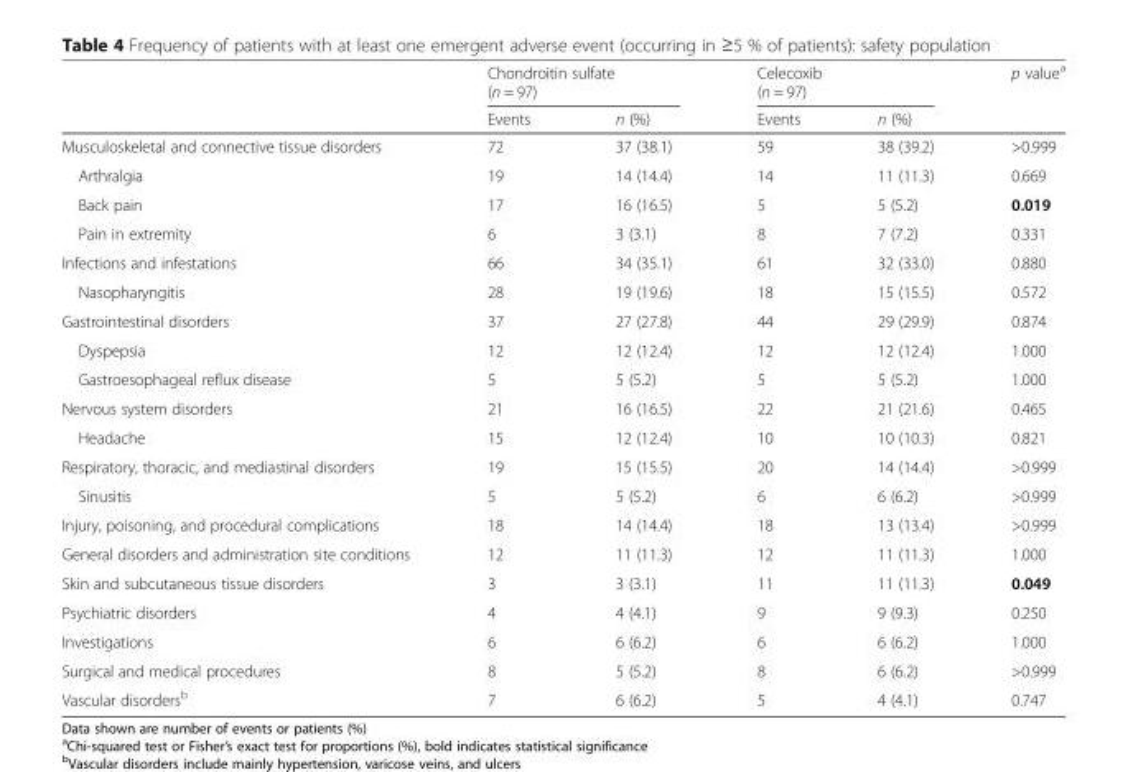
<table><thead><tr><td rowspan="2"></td><td colspan="2">Chondroitin sulfate (n = 97)</td><td colspan="2">Celecoxib (n = 97)</td><td rowspan="2">p value<sup>a</sup></td></tr><tr><td>Events</td><td>n (%)</td><td>Events</td><td>n (%)</td></tr></thead><tbody><tr><td>Musculoskeletal and connective tissue disorders</td><td>72</td><td>37 (38.1)</td><td>59</td><td>38 (39.2)</td><td>&gt;0.999</td></tr><tr><td>Arthralgia</td><td>19</td><td>14 (14.4)</td><td>14</td><td>11 (11.3)</td><td>0.669</td></tr><tr><td>Back pain</td><td>17</td><td>16 (16.5)</td><td>5</td><td>5 (5.2)</td><td>0.019</td></tr><tr><td>Pain in extremity</td><td>6</td><td>3 (3.1)</td><td>8</td><td>7 (7.2)</td><td>0.331</td></tr><tr><td>Infections and infestations</td><td>66</td><td>34 (35.1)</td><td>61</td><td>32 (33.0)</td><td>0.880</td></tr><tr><td>Nasopharyngitis</td><td>28</td><td>19 (19.6)</td><td>18</td><td>15 (15.5)</td><td>0.572</td></tr><tr><td>Gastrointestinal disorders</td><td>37</td><td>27 (27.8)</td><td>44</td><td>29 (29.9)</td><td>0.874</td></tr><tr><td>Dyspepsia</td><td>12</td><td>12 (12.4)</td><td>12</td><td>12 (12.4)</td><td>1.000</td></tr><tr><td>Gastroesophageal reflux disease</td><td>5</td><td>5 (5.2)</td><td>5</td><td>5 (5.2)</td><td>1.000</td></tr><tr><td>Nervous system disorders</td><td>21</td><td>16 (16.5)</td><td>22</td><td>21 (21.6)</td><td>0.465</td></tr><tr><td>Headache</td><td>15</td><td>12 (12.4)</td><td>10</td><td>10 (10.3)</td><td>0.821</td></tr><tr><td>Respiratory, thoracic, and mediastinal disorders</td><td>19</td><td>15 (15.5)</td><td>20</td><td>14 (14.4)</td><td>&gt;0.999</td></tr><tr><td>Sinusitis</td><td>5</td><td>5 (5.2)</td><td>6</td><td>6 (6.2)</td><td>&gt;0.999</td></tr><tr><td>Injury, poisoning, and procedural complications</td><td>18</td><td>14 (14.4)</td><td>18</td><td>13 (13.4)</td><td>&gt;0.999</td></tr><tr><td>General disorders and administration site conditions</td><td>12</td><td>11 (11.3)</td><td>12</td><td>11 (11.3)</td><td>1.000</td></tr><tr><td>Skin and subcutaneous tissue disorders</td><td>3</td><td>3 (3.1)</td><td>11</td><td>11 (11.3)</td><td>0.049</td></tr><tr><td>Psychiatric disorders</td><td>4</td><td>4 (4.1)</td><td>9</td><td>9 (9.3)</td><td>0.250</td></tr><tr><td>Investigations</td><td>6</td><td>6 (6.2)</td><td>6</td><td>6 (6.2)</td><td>1.000</td></tr><tr><td>Surgical and medical procedures</td><td>8</td><td>5 (5.2)</td><td>8</td><td>6 (6.2)</td><td>&gt;0.999</td></tr><tr><td>Vascular disorders<sup>b</sup></td><td>7</td><td>6 (6.2)</td><td>5</td><td>4 (4.1)</td><td>0.747</td></tr></tbody></table>